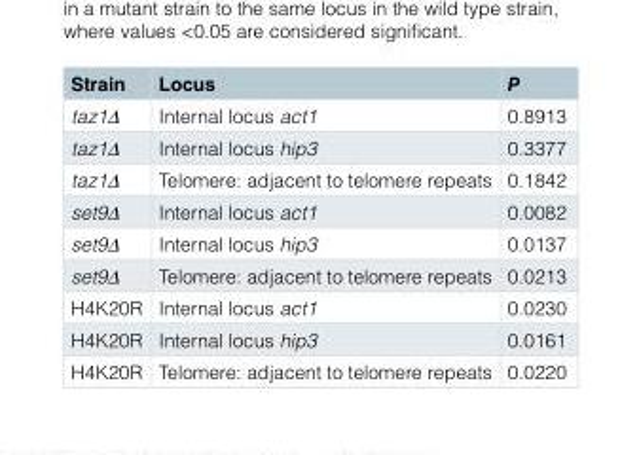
<table><thead><tr><td>Strain</td><td>Locus</td><td>P</td></tr></thead><tbody><tr><td>taz1∆</td><td>Internal locus act1</td><td>0.8913</td></tr><tr><td>taz1∆</td><td>Internal locus hip3</td><td>0.3377</td></tr><tr><td>taz1∆</td><td>Telomere: adjacent to telomere repeats</td><td>0.1842</td></tr><tr><td>set9∆</td><td>Internal locus act1</td><td>0.0082</td></tr><tr><td>set9∆</td><td>Internal locus hip3</td><td>0.0137</td></tr><tr><td>set9∆</td><td>Telomere: adjacent to telomere repeats</td><td>0.0213</td></tr><tr><td>H4K20R</td><td>Internal locus act1</td><td>0.0230</td></tr><tr><td>H4K20R</td><td>Internal locus hip3</td><td>0.0161</td></tr><tr><td>H4K20R</td><td>Telomere: adjacent to telomere repeats</td><td>0.0220</td></tr></tbody></table>